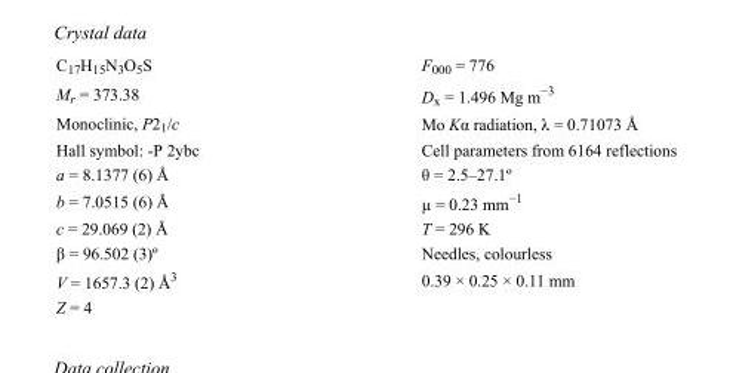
<table><tbody><tr><td>C<sub>17</sub>H<sub>15</sub>N<sub>3</sub>O<sub>5</sub>S</td><td>F000 = 776</td></tr><tr><td>M<sub>r</sub> = 373.38</td><td>D<sub>x</sub> = 1.496 Mg m<sup>−3</sup></td></tr><tr><td>Monoclinic, P2<sub>1</sub>/c</td><td>Mo Kα radiation, λ = 0.71073 Å</td></tr><tr><td>Hall symbol: -P 2ybc</td><td>Cell parameters from 6164 reflections</td></tr><tr><td>a = 8.1377 (6) Å</td><td>θ = 2.5–27.1º</td></tr><tr><td>b = 7.0515 (6) Å</td><td>µ = 0.23 mm<sup>−1</sup></td></tr><tr><td>c = 29.069 (2) Å</td><td>T = 296 K</td></tr><tr><td>β = 96.502 (3)º</td><td>Needles, colourless</td></tr><tr><td>V = 1657.3 (2) Å<sup>3</sup></td><td>0.39 × 0.25 × 0.11 mm</td></tr><tr><td>Z = 4</td><td></td></tr></tbody></table>